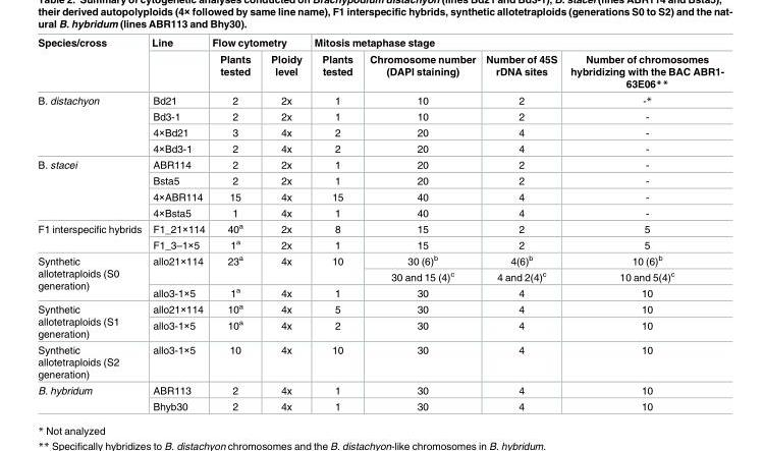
<table><thead><tr><td rowspan="2">Species/cross</td><td rowspan="2">Line</td><td colspan="2">Flow cytometry</td><td colspan="4">Mitosis metaphase stage</td></tr><tr><td>Plants tested</td><td>Ploidy level</td><td>Plants tested</td><td>Chromosome number (DAPI staining)</td><td>Number of 45S rDNA sites</td><td>Number of chromosomes hybridizing with the BAC ABR1- 63E06**</td></tr></thead><tbody><tr><td rowspan="4">B. distachyon</td><td>Bd21</td><td>2</td><td>2x</td><td>1</td><td>10</td><td>2</td><td>-*</td></tr><tr><td>Bd3-1</td><td>2</td><td>2x</td><td>1</td><td>10</td><td>2</td><td>-</td></tr><tr><td>4×Bd21</td><td>3</td><td>4x</td><td>2</td><td>20</td><td>4</td><td>-</td></tr><tr><td>4×Bd3-1</td><td>2</td><td>4x</td><td>2</td><td>20</td><td>4</td><td>-</td></tr><tr><td rowspan="4">B. stacei</td><td>ABR114</td><td>2</td><td>2x</td><td>1</td><td>20</td><td>2</td><td>-</td></tr><tr><td>Bsta5</td><td>2</td><td>2x</td><td>1</td><td>20</td><td>2</td><td>-</td></tr><tr><td>4×ABR114</td><td>15</td><td>4x</td><td>15</td><td>40</td><td>4</td><td>-</td></tr><tr><td>4×Bsta5</td><td>1</td><td>4x</td><td>1</td><td>40</td><td>4</td><td>-</td></tr><tr><td rowspan="2">F1 interspecific hybrids</td><td>F1_21×114</td><td>40<sup>a</sup></td><td>2x</td><td>8</td><td>15</td><td>2</td><td>5</td></tr><tr><td>F1_3–1×5</td><td>1<sup>a</sup></td><td>2x</td><td>1</td><td>15</td><td>2</td><td>5</td></tr><tr><td rowspan="3">Synthetic allotetraploids (S0 generation)</td><td rowspan="2">allo21×114</td><td rowspan="2">23<sup>a</sup></td><td rowspan="2">4x</td><td rowspan="2">10</td><td>30 (6)<sup>b</sup></td><td>4(6)<sup>b</sup></td><td>10 (6)<sup>b</sup></td></tr><tr><td>30 and 15 (4)<sup>c</sup></td><td>4 and 2(4)<sup>c</sup></td><td>10 and 5(4)<sup>c</sup></td></tr><tr><td>allo3-1×5</td><td>1<sup>a</sup></td><td>4x</td><td>1</td><td>30</td><td>4</td><td>10</td></tr><tr><td rowspan="2">Synthetic allotetraploids (S1 generation)</td><td>allo21×114</td><td>10<sup>a</sup></td><td>4x</td><td>5</td><td>30</td><td>4</td><td>10</td></tr><tr><td>allo3-1×5</td><td>10<sup>a</sup></td><td>4x</td><td>2</td><td>30</td><td>4</td><td>10</td></tr><tr><td>Synthetic allotetraploids (S2 generation)</td><td>allo3-1×5</td><td>10</td><td>4x</td><td>10</td><td>30</td><td>4</td><td>10</td></tr><tr><td rowspan="2">B. hybridum</td><td>ABR113</td><td>2</td><td>4x</td><td>1</td><td>30</td><td>4</td><td>10</td></tr><tr><td>Bhyb30</td><td>2</td><td>4x</td><td>1</td><td>30</td><td>4</td><td>10</td></tr></tbody></table>